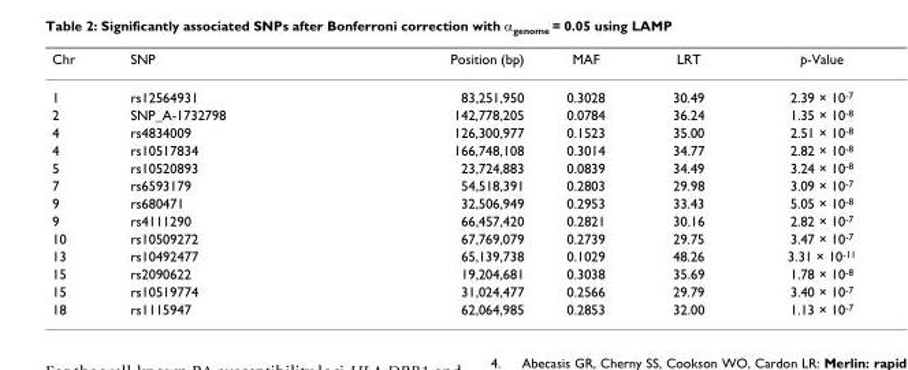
<table><thead><tr><td>Chr</td><td>SNP</td><td>Position (bp)</td><td>MAF</td><td>LRT</td><td>p-Value</td></tr></thead><tbody><tr><td>1</td><td>rs12564931</td><td>83,251,950</td><td>0.3028</td><td>30.49</td><td>2.39 × 10<sup>-7</sup></td></tr><tr><td>2</td><td>SNP_A-1732798</td><td>142,778,205</td><td>0.0784</td><td>36.24</td><td>1.35 × 10<sup>-8</sup></td></tr><tr><td>4</td><td>rs4834009</td><td>126,300,977</td><td>0.1523</td><td>35.00</td><td>2.51 × 10<sup>-8</sup></td></tr><tr><td>4</td><td>rs10517834</td><td>166,748,108</td><td>0.3014</td><td>34.77</td><td>2.82 × 10<sup>-8</sup></td></tr><tr><td>5</td><td>rs10520893</td><td>23,724,883</td><td>0.0839</td><td>34.49</td><td>3.24 × 10<sup>-8</sup></td></tr><tr><td>7</td><td>rs6593179</td><td>54,518,391</td><td>0.2803</td><td>29.98</td><td>3.09 × 10<sup>-7</sup></td></tr><tr><td>9</td><td>rs680471</td><td>32,506,949</td><td>0.2953</td><td>33.43</td><td>5.05 × 10<sup>-8</sup></td></tr><tr><td>9</td><td>rs4111290</td><td>66,457,420</td><td>0.2821</td><td>30.16</td><td>2.82 × 10<sup>-7</sup></td></tr><tr><td>10</td><td>rs10509272</td><td>67,769,079</td><td>0.2739</td><td>29.75</td><td>3.47 × 10<sup>-7</sup></td></tr><tr><td>13</td><td>rs10492477</td><td>65,139,738</td><td>0.1029</td><td>48.26</td><td>3.31 × 10<sup>-11</sup></td></tr><tr><td>15</td><td>rs2090622</td><td>19,204,681</td><td>0.3038</td><td>35.69</td><td>1.78 × 10<sup>-8</sup></td></tr><tr><td>15</td><td>rs10519774</td><td>31,024,477</td><td>0.2566</td><td>29.79</td><td>3.40 × 10<sup>-7</sup></td></tr><tr><td>18</td><td>rs1115947</td><td>62,064,985</td><td>0.2853</td><td>32.00</td><td>1.13 × 10<sup>-7</sup></td></tr></tbody></table>